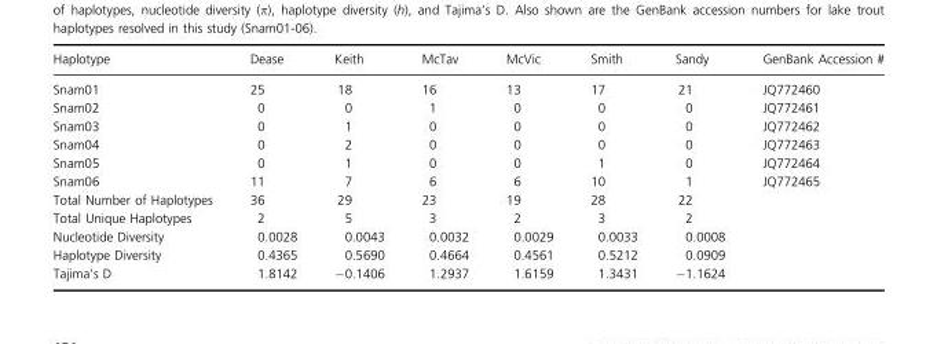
<table><thead><tr><td>Haplotype</td><td>Dease</td><td>Keith</td><td>McTav</td><td>McVic</td><td>Smith</td><td>Sandy</td><td>GenBank Accession #</td></tr></thead><tbody><tr><td>Snam01</td><td>25</td><td>18</td><td>16</td><td>13</td><td>17</td><td>21</td><td>JQ772460</td></tr><tr><td>Snam02</td><td>0</td><td>0</td><td>1</td><td>0</td><td>0</td><td>0</td><td>JQ772461</td></tr><tr><td>Snam03</td><td>0</td><td>1</td><td>0</td><td>0</td><td>0</td><td>0</td><td>JQ772462</td></tr><tr><td>Snam04</td><td>0</td><td>2</td><td>0</td><td>0</td><td>0</td><td>0</td><td>JQ772463</td></tr><tr><td>Snam05</td><td>0</td><td>1</td><td>0</td><td>0</td><td>1</td><td>0</td><td>JQ772464</td></tr><tr><td>Snam06</td><td>11</td><td>7</td><td>6</td><td>6</td><td>10</td><td>1</td><td>JQ772465</td></tr><tr><td>Total Number of Haplotypes</td><td>36</td><td>29</td><td>23</td><td>19</td><td>28</td><td>22</td><td></td></tr><tr><td>Total Unique Haplotypes</td><td>2</td><td>5</td><td>3</td><td>2</td><td>3</td><td>2</td><td></td></tr><tr><td>Nucleotide Diversity</td><td>0.0028</td><td>0.0043</td><td>0.0032</td><td>0.0029</td><td>0.0033</td><td>0.0008</td><td></td></tr><tr><td>Haplotype Diversity</td><td>0.4365</td><td>0.5690</td><td>0.4664</td><td>0.4561</td><td>0.5212</td><td>0.0909</td><td></td></tr><tr><td>Tajima’s D</td><td>1.8142</td><td>−0.1406</td><td>1.2937</td><td>1.6159</td><td>1.3431</td><td>−1.1624</td><td></td></tr></tbody></table>